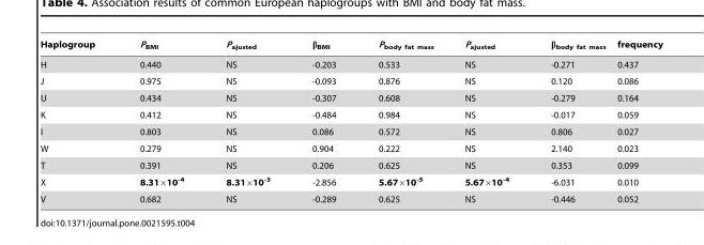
<table><thead><tr><td>Haplogroup</td><td>P<sub>BMI</sub></td><td>P<sub>ajusted</sub></td><td>β<sub>BMI</sub></td><td>P<sub>body fat mass</sub></td><td>P<sub>ajusted</sub></td><td>β<sub>body fat mass</sub></td><td>frequency</td></tr></thead><tbody><tr><td>H</td><td>0.440</td><td>NS</td><td>-0.203</td><td>0.533</td><td>NS</td><td>-0.271</td><td>0.437</td></tr><tr><td>J</td><td>0.975</td><td>NS</td><td>-0.093</td><td>0.876</td><td>NS</td><td>0.120</td><td>0.086</td></tr><tr><td>U</td><td>0.434</td><td>NS</td><td>-0.307</td><td>0.608</td><td>NS</td><td>-0.279</td><td>0.164</td></tr><tr><td>K</td><td>0.412</td><td>NS</td><td>-0.484</td><td>0.984</td><td>NS</td><td>-0.017</td><td>0.059</td></tr><tr><td>I</td><td>0.803</td><td>NS</td><td>0.086</td><td>0.572</td><td>NS</td><td>0.806</td><td>0.027</td></tr><tr><td>W</td><td>0.279</td><td>NS</td><td>0.904</td><td>0.222</td><td>NS</td><td>2.140</td><td>0.023</td></tr><tr><td>T</td><td>0.391</td><td>NS</td><td>0.206</td><td>0.625</td><td>NS</td><td>0.353</td><td>0.099</td></tr><tr><td>X</td><td>8.31×10<sup>-4</sup></td><td>8.31×10<sup>-3</sup></td><td>-2.856</td><td>5.67×10<sup>-5</sup></td><td>5.67×10<sup>-4</sup></td><td>-6.031</td><td>0.010</td></tr><tr><td>V</td><td>0.682</td><td>NS</td><td>-0.289</td><td>0.625</td><td>NS</td><td>-0.446</td><td>0.052</td></tr></tbody></table>